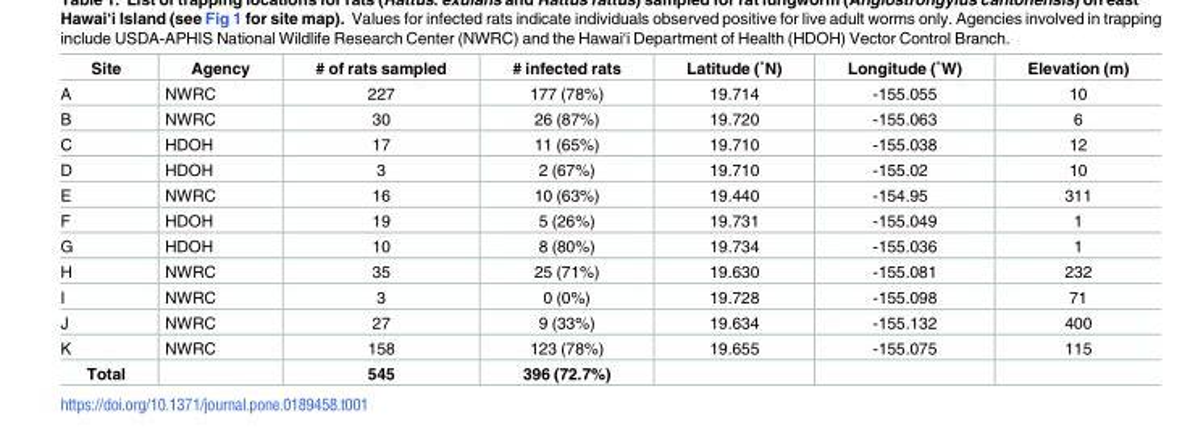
<table><thead><tr><td>Site</td><td>Agency</td><td># of rats sampled</td><td># infected rats</td><td>Latitude (˚N)</td><td>Longitude (˚W)</td><td>Elevation (m)</td></tr></thead><tbody><tr><td>A</td><td>NWRC</td><td>227</td><td>177 (78%)</td><td>19.714</td><td>-155.055</td><td>10</td></tr><tr><td>B</td><td>NWRC</td><td>30</td><td>26 (87%)</td><td>19.720</td><td>-155.063</td><td>6</td></tr><tr><td>C</td><td>HDOH</td><td>17</td><td>11 (65%)</td><td>19.710</td><td>-155.038</td><td>12</td></tr><tr><td>D</td><td>HDOH</td><td>3</td><td>2 (67%)</td><td>19.710</td><td>-155.02</td><td>10</td></tr><tr><td>E</td><td>NWRC</td><td>16</td><td>10 (63%)</td><td>19.440</td><td>-154.95</td><td>311</td></tr><tr><td>F</td><td>HDOH</td><td>19</td><td>5 (26%)</td><td>19.731</td><td>-155.049</td><td>1</td></tr><tr><td>G</td><td>HDOH</td><td>10</td><td>8 (80%)</td><td>19.734</td><td>-155.036</td><td>1</td></tr><tr><td>H</td><td>NWRC</td><td>35</td><td>25 (71%)</td><td>19.630</td><td>-155.081</td><td>232</td></tr><tr><td>I</td><td>NWRC</td><td>3</td><td>0 (0%)</td><td>19.728</td><td>-155.098</td><td>71</td></tr><tr><td>J</td><td>NWRC</td><td>27</td><td>9 (33%)</td><td>19.634</td><td>-155.132</td><td>400</td></tr><tr><td>K</td><td>NWRC</td><td>158</td><td>123 (78%)</td><td>19.655</td><td>-155.075</td><td>115</td></tr><tr><td>Total</td><td></td><td>545</td><td>396 (72.7%)</td><td></td><td></td><td></td></tr></tbody></table>